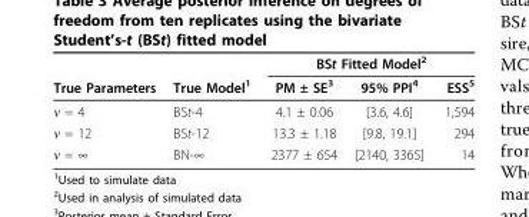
<table><thead><tr><td rowspan="2">True Parameters</td><td rowspan="2">True Model<sup>1</sup></td><td colspan="3">BSt Fitted Model<sup>2</sup></td></tr><tr><td>PM ± SE<sup>3</sup></td><td>95% PPI<sup>4</sup></td><td>ESS<sup>5</sup></td></tr></thead><tbody><tr><td>ν = 4</td><td>BSt-4</td><td>4.1 ± 0.06</td><td>[3.6, 4.6]</td><td>1,594</td></tr><tr><td>ν = 12</td><td>BSt-12</td><td>13.3 ± 1.18</td><td>[9.8, 19.1]</td><td>294</td></tr><tr><td>ν = ∞</td><td>BN-∞</td><td>2377 ± 654</td><td>[2140, 3365]</td><td>14</td></tr></tbody></table>